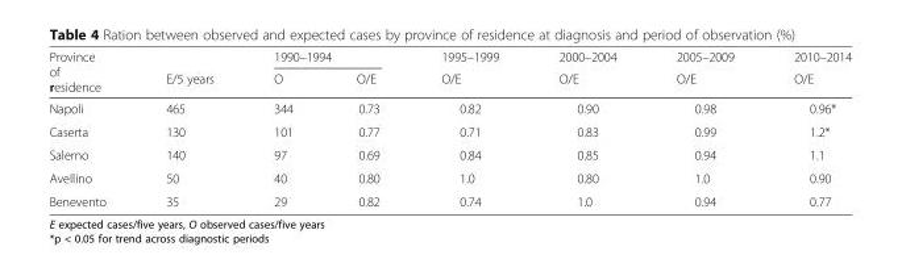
<table><thead><tr><td rowspan="2">Province of residence</td><td rowspan="2">E/5 years</td><td colspan="2">1990–1994</td><td rowspan="2">1995–1999 O/E</td><td rowspan="2">2000–2004 O/E</td><td rowspan="2">2005–2009 O/E</td><td rowspan="2">2010–2014 O/E</td></tr><tr><td>O</td><td>O/E</td></tr></thead><tbody><tr><td>Napoli</td><td>465</td><td>344</td><td>0.73</td><td>0.82</td><td>0.90</td><td>0.98</td><td>0.96*</td></tr><tr><td>Caserta</td><td>130</td><td>101</td><td>0.77</td><td>0.71</td><td>0.83</td><td>0.99</td><td>1.2*</td></tr><tr><td>Salerno</td><td>140</td><td>97</td><td>0.69</td><td>0.84</td><td>0.85</td><td>0.94</td><td>1.1</td></tr><tr><td>Avellino</td><td>50</td><td>40</td><td>0.80</td><td>1.0</td><td>0.80</td><td>1.0</td><td>0.90</td></tr><tr><td>Benevento</td><td>35</td><td>29</td><td>0.82</td><td>0.74</td><td>1.0</td><td>0.94</td><td>0.77</td></tr></tbody></table>